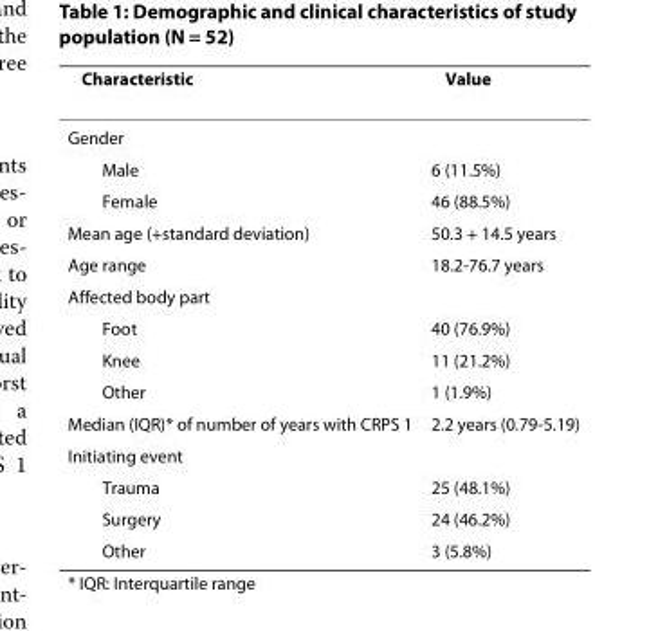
<table><thead><tr><td>Characteristic</td><td>Value</td></tr></thead><tbody><tr><td colspan="2">Gender</td></tr><tr><td>Male</td><td>6 (11.5%)</td></tr><tr><td>Female</td><td>46 (88.5%)</td></tr><tr><td>Mean age (+standard deviation)</td><td>50.3 + 14.5 years</td></tr><tr><td>Age range</td><td>18.2-76.7 years</td></tr><tr><td colspan="2">Affected body part</td></tr><tr><td>Foot</td><td>40 (76.9%)</td></tr><tr><td>Knee</td><td>11 (21.2%)</td></tr><tr><td>Other</td><td>1 (1.9%)</td></tr><tr><td>Median (IQR)* of number of years with CRPS 1</td><td>2.2 years (0.79-5.19)</td></tr><tr><td colspan="2">Initiating event</td></tr><tr><td>Trauma</td><td>25 (48.1%)</td></tr><tr><td>Surgery</td><td>24 (46.2%)</td></tr><tr><td>Other</td><td>3 (5.8%)</td></tr></tbody></table>